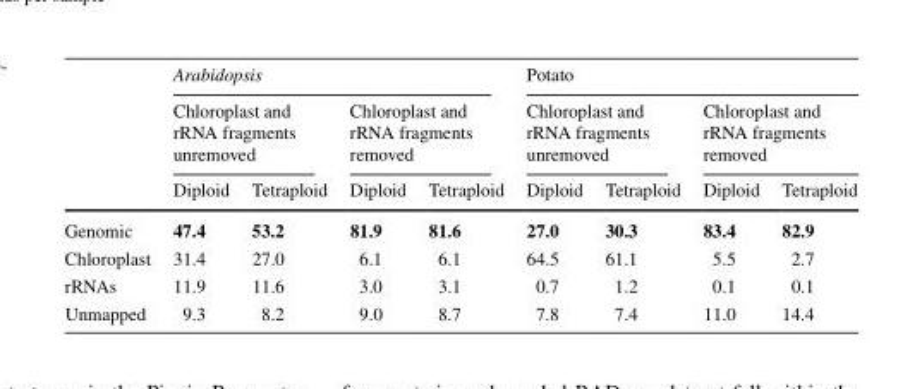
<table><thead><tr><td rowspan="3"></td><td colspan="4">Arabidopsis</td><td colspan="4">Potato</td></tr><tr><td colspan="2">Chloroplast and rRNA fragments unremoved</td><td colspan="2">Chloroplast and rRNA fragments removed</td><td colspan="2">Chloroplast and rRNA fragments unremoved</td><td colspan="2">Chloroplast and rRNA fragments removed</td></tr><tr><td>Diploid</td><td>Tetraploid</td><td>Diploid</td><td>Tetraploid</td><td>Diploid</td><td>Tetraploid</td><td>Diploid</td><td>Tetraploid</td></tr></thead><tbody><tr><td>Genomic</td><td>47.4</td><td>53.2</td><td>81.9</td><td>81.6</td><td>27.0</td><td>30.3</td><td>83.4</td><td>82.9</td></tr><tr><td>Chloroplast</td><td>31.4</td><td>27.0</td><td>6.1</td><td>6.1</td><td>64.5</td><td>61.1</td><td>5.5</td><td>2.7</td></tr><tr><td>rRNAs</td><td>11.9</td><td>11.6</td><td>3.0</td><td>3.1</td><td>0.7</td><td>1.2</td><td>0.1</td><td>0.1</td></tr><tr><td>Unmapped</td><td>9.3</td><td>8.2</td><td>9.0</td><td>8.7</td><td>7.8</td><td>7.4</td><td>11.0</td><td>14.4</td></tr></tbody></table>